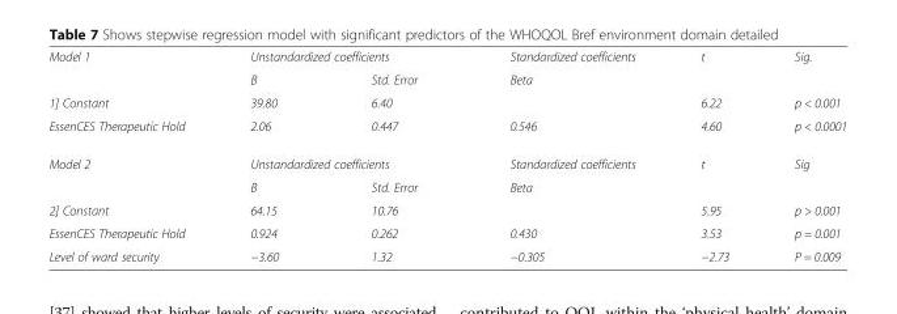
<table><tbody><tr><td rowspan="2">Model 1</td><td colspan="2">Unstandardized coefficients</td><td>Standardized coefficients</td><td>t</td><td>Sig.</td></tr><tr><td>B</td><td>Std. Error</td><td>Beta</td><td></td><td></td></tr><tr><td>1] Constant</td><td>39.80</td><td>6.40</td><td></td><td>6.22</td><td>p &lt; 0.001</td></tr><tr><td>EssenCES Therapeutic Hold</td><td>2.06</td><td>0.447</td><td>0.546</td><td>4.60</td><td>p &lt; 0.0001</td></tr><tr><td rowspan="2">Model 2</td><td colspan="2">Unstandardized coefficients</td><td>Standardized coefficients</td><td>t</td><td>Sig</td></tr><tr><td>B</td><td>Std. Error</td><td>Beta</td><td></td><td></td></tr><tr><td>2] Constant</td><td>64.15</td><td>10.76</td><td></td><td>5.95</td><td>p &gt; 0.001</td></tr><tr><td>EssenCES Therapeutic Hold</td><td>0.924</td><td>0.262</td><td>0.430</td><td>3.53</td><td>p = 0.001</td></tr><tr><td>Level of ward security</td><td>−3.60</td><td>1.32</td><td>−0.305</td><td>−2.73</td><td>P = 0.009</td></tr></tbody></table>